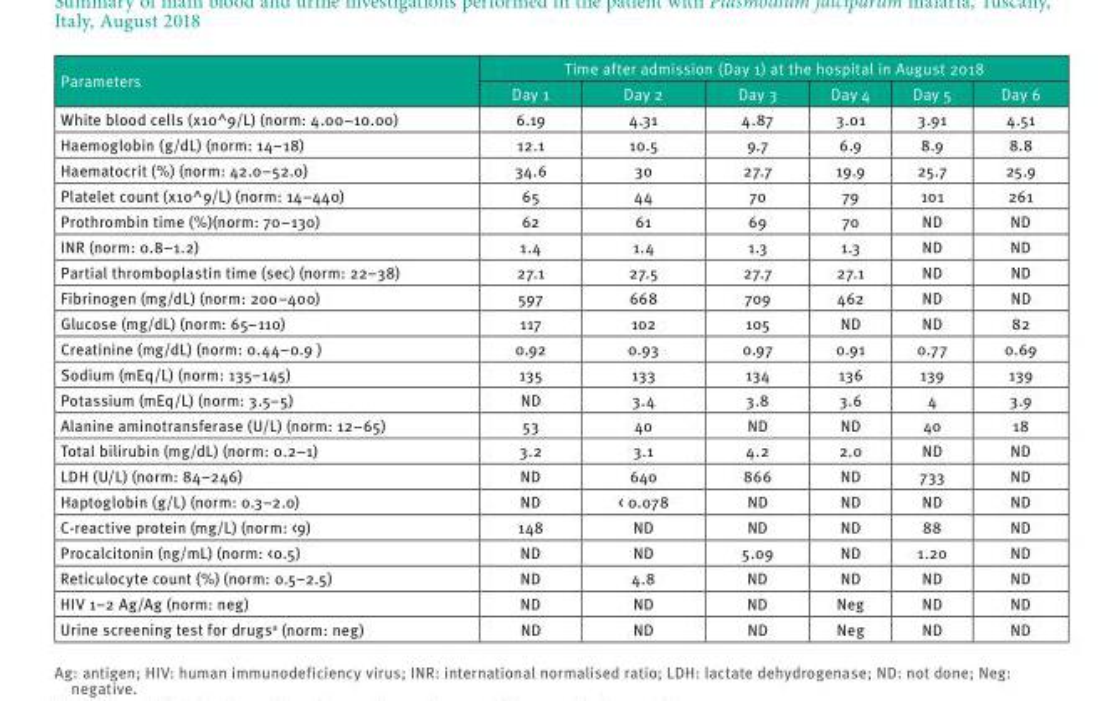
<table><thead><tr><td rowspan="2">Parameters</td><td colspan="6">Time after admission (Day 1) at the hospital in August 2018</td></tr><tr><td>Day 1</td><td>Day 2</td><td>Day 3</td><td>Day 4</td><td>Day 5</td><td>Day 6</td></tr></thead><tbody><tr><td>White blood cells (x10^9/L) (norm: 4.00–10.00)</td><td>6.19</td><td>4.31</td><td>4.87</td><td>3.01</td><td>3.91</td><td>4.51</td></tr><tr><td>Haemoglobin (g/dL) (norm: 14–18)</td><td>12.1</td><td>10.5</td><td>9.7</td><td>6.9</td><td>8.9</td><td>8.8</td></tr><tr><td>Haematocrit (%) (norm: 42.0–52.0)</td><td>34.6</td><td>30</td><td>27.7</td><td>19.9</td><td>25.7</td><td>25.9</td></tr><tr><td>Platelet count (x10^9/L) (norm: 14–440)</td><td>65</td><td>44</td><td>70</td><td>79</td><td>101</td><td>261</td></tr><tr><td>Prothrombin time (%)(norm: 70–130)</td><td>62</td><td>61</td><td>69</td><td>70</td><td>ND</td><td>ND</td></tr><tr><td>INR (norm: 0.8–1.2)</td><td>1.4</td><td>1.4</td><td>1.3</td><td>1.3</td><td>ND</td><td>ND</td></tr><tr><td>Partial thromboplastin time (sec) (norm: 22–38)</td><td>27.1</td><td>27.5</td><td>27.7</td><td>27.1</td><td>ND</td><td>ND</td></tr><tr><td>Fibrinogen (mg/dL) (norm: 200–400)</td><td>597</td><td>668</td><td>709</td><td>462</td><td>ND</td><td>ND</td></tr><tr><td>Glucose (mg/dL) (norm: 65–110)</td><td>117</td><td>102</td><td>105</td><td>ND</td><td>ND</td><td>82</td></tr><tr><td>Creatinine (mg/dL) (norm: 0.44–0.9 )</td><td>0.92</td><td>0.93</td><td>0.97</td><td>0.91</td><td>0.77</td><td>0.69</td></tr><tr><td>Sodium (mEq/L) (norm: 135–145)</td><td>135</td><td>133</td><td>134</td><td>136</td><td>139</td><td>139</td></tr><tr><td>Potassium (mEq/L) (norm: 3.5–5)</td><td>ND</td><td>3.4</td><td>3.8</td><td>3.6</td><td>4</td><td>3.9</td></tr><tr><td>Alanine aminotransferase (U/L) (norm: 12–65)</td><td>53</td><td>40</td><td>ND</td><td>ND</td><td>40</td><td>18</td></tr><tr><td>Total bilirubin (mg/dL) (norm: 0.2–1)</td><td>3.2</td><td>3.1</td><td>4.2</td><td>2.0</td><td>ND</td><td>ND</td></tr><tr><td>LDH (U/L) (norm: 84–246)</td><td>ND</td><td>640</td><td>866</td><td>ND</td><td>733</td><td>ND</td></tr><tr><td>Haptoglobin (g/L) (norm: 0.3–2.0)</td><td>ND</td><td>&lt; 0.078</td><td>ND</td><td>ND</td><td>ND</td><td>ND</td></tr><tr><td>C-reactive protein (mg/L) (norm: &lt;9)</td><td>148</td><td>ND</td><td>ND</td><td>ND</td><td>88</td><td>ND</td></tr><tr><td>Procalcitonin (ng/mL) (norm: &lt;0.5)</td><td>ND</td><td>ND</td><td>5.09</td><td>ND</td><td>1.20</td><td>ND</td></tr><tr><td>Reticulocyte count (%) (norm: 0.5–2.5)</td><td>ND</td><td>4.8</td><td>ND</td><td>ND</td><td>ND</td><td>ND</td></tr><tr><td>HIV 1–2 Ag/Ag (norm: neg)</td><td>ND</td><td>ND</td><td>ND</td><td>Neg</td><td>ND</td><td>ND</td></tr><tr><td>Urine screening test for drugs<sup>a</sup> (norm: neg)</td><td>ND</td><td>ND</td><td>ND</td><td>Neg</td><td>ND</td><td>ND</td></tr></tbody></table>